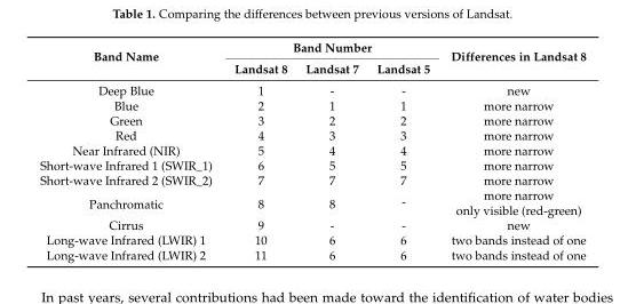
<table><thead><tr><td rowspan="2">Band Name</td><td colspan="3">Band Number</td><td rowspan="2">Differences in Landsat 8</td></tr><tr><td>Landsat 8</td><td>Landsat 7</td><td>Landsat 5</td></tr></thead><tbody><tr><td>Deep Blue</td><td>1</td><td>-</td><td>-</td><td>new</td></tr><tr><td>Blue</td><td>2</td><td>1</td><td>1</td><td>more narrow</td></tr><tr><td>Green</td><td>3</td><td>2</td><td>2</td><td>more narrow</td></tr><tr><td>Red</td><td>4</td><td>3</td><td>3</td><td>more narrow</td></tr><tr><td>Near Infrared (NIR)</td><td>5</td><td>4</td><td>4</td><td>more narrow</td></tr><tr><td>Short-wave Infrared 1 (SWIR_1)</td><td>6</td><td>5</td><td>5</td><td>more narrow</td></tr><tr><td>Short-wave Infrared 2 (SWIR_2)</td><td>7</td><td>7</td><td>7</td><td>more narrow</td></tr><tr><td rowspan="2">Panchromatic</td><td rowspan="2">8</td><td rowspan="2">8</td><td rowspan="2">-</td><td>more narrow</td></tr><tr><td>only visible (red-green)</td></tr><tr><td>Cirrus</td><td>9</td><td>-</td><td>-</td><td>new</td></tr><tr><td>Long-wave Infrared (LWIR) 1</td><td>10</td><td>6</td><td>6</td><td>two bands instead of one</td></tr><tr><td>Long-wave Infrared (LWIR) 2</td><td>11</td><td>6</td><td>6</td><td>two bands instead of one</td></tr></tbody></table>